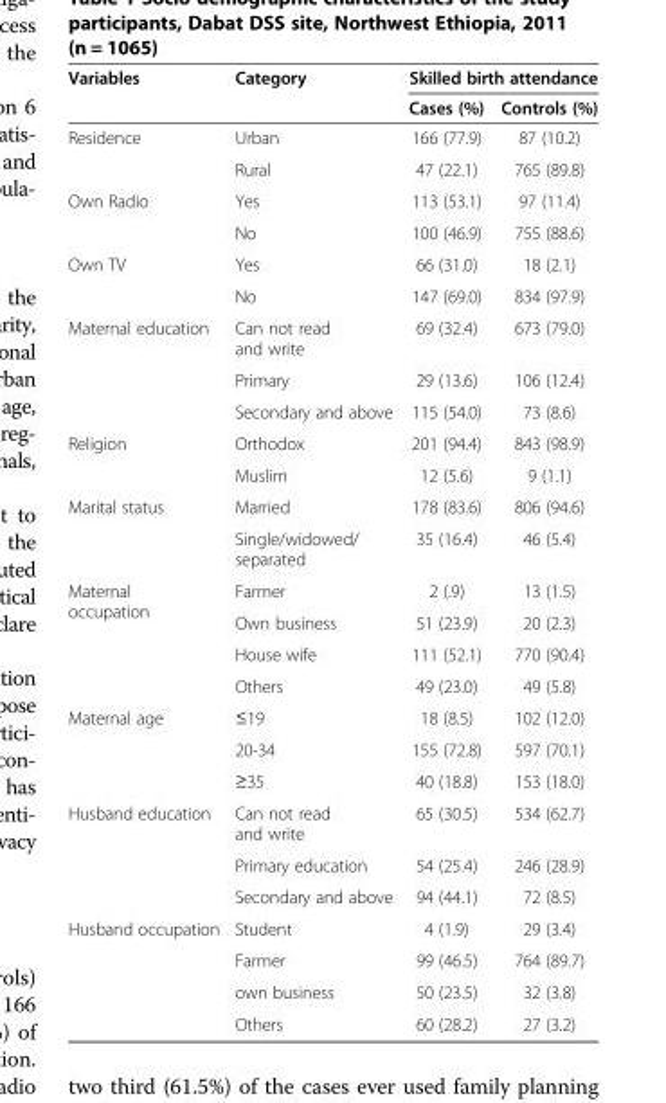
<table><thead><tr><td rowspan="2">Variables</td><td rowspan="2">Category</td><td colspan="2">Skilled birth attendance</td></tr><tr><td>Cases (%)</td><td>Controls (%)</td></tr></thead><tbody><tr><td rowspan="2">Residence</td><td>Urban</td><td>166 (77.9)</td><td>87 (10.2)</td></tr><tr><td>Rural</td><td>47 (22.1)</td><td>765 (89.8)</td></tr><tr><td rowspan="2">Own Radio</td><td>Yes</td><td>113 (53.1)</td><td>97 (11.4)</td></tr><tr><td>No</td><td>100 (46.9)</td><td>755 (88.6)</td></tr><tr><td rowspan="2">Own TV</td><td>Yes</td><td>66 (31.0)</td><td>18 (2.1)</td></tr><tr><td>No</td><td>147 (69.0)</td><td>834 (97.9)</td></tr><tr><td rowspan="3">Maternal education</td><td>Can not read and write</td><td>69 (32.4)</td><td>673 (79.0)</td></tr><tr><td>Primary</td><td>29 (13.6)</td><td>106 (12.4)</td></tr><tr><td>Secondary and above</td><td>115 (54.0)</td><td>73 (8.6)</td></tr><tr><td rowspan="2">Religion</td><td>Orthodox</td><td>201 (94.4)</td><td>843 (98.9)</td></tr><tr><td>Muslim</td><td>12 (5.6)</td><td>9 (1.1)</td></tr><tr><td rowspan="2">Marital status</td><td>Married</td><td>178 (83.6)</td><td>806 (94.6)</td></tr><tr><td>Single/widowed/ separated</td><td>35 (16.4)</td><td>46 (5.4)</td></tr><tr><td rowspan="4">Maternal occupation</td><td>Farmer</td><td>2 (.9)</td><td>13 (1.5)</td></tr><tr><td>Own business</td><td>51 (23.9)</td><td>20 (2.3)</td></tr><tr><td>House wife</td><td>111 (52.1)</td><td>770 (90.4)</td></tr><tr><td>Others</td><td>49 (23.0)</td><td>49 (5.8)</td></tr><tr><td rowspan="3">Maternal age</td><td>≤19</td><td>18 (8.5)</td><td>102 (12.0)</td></tr><tr><td>20-34</td><td>155 (72.8)</td><td>597 (70.1)</td></tr><tr><td>≥35</td><td>40 (18.8)</td><td>153 (18.0)</td></tr><tr><td rowspan="3">Husband education</td><td>Can not read and write</td><td>65 (30.5)</td><td>534 (62.7)</td></tr><tr><td>Primary education</td><td>54 (25.4)</td><td>246 (28.9)</td></tr><tr><td>Secondary and above</td><td>94 (44.1)</td><td>72 (8.5)</td></tr><tr><td rowspan="4">Husband occupation</td><td>Student</td><td>4 (1.9)</td><td>29 (3.4)</td></tr><tr><td>Farmer</td><td>99 (46.5)</td><td>764 (89.7)</td></tr><tr><td>own business</td><td>50 (23.5)</td><td>32 (3.8)</td></tr><tr><td>Others</td><td>60 (28.2)</td><td>27 (3.2)</td></tr></tbody></table>